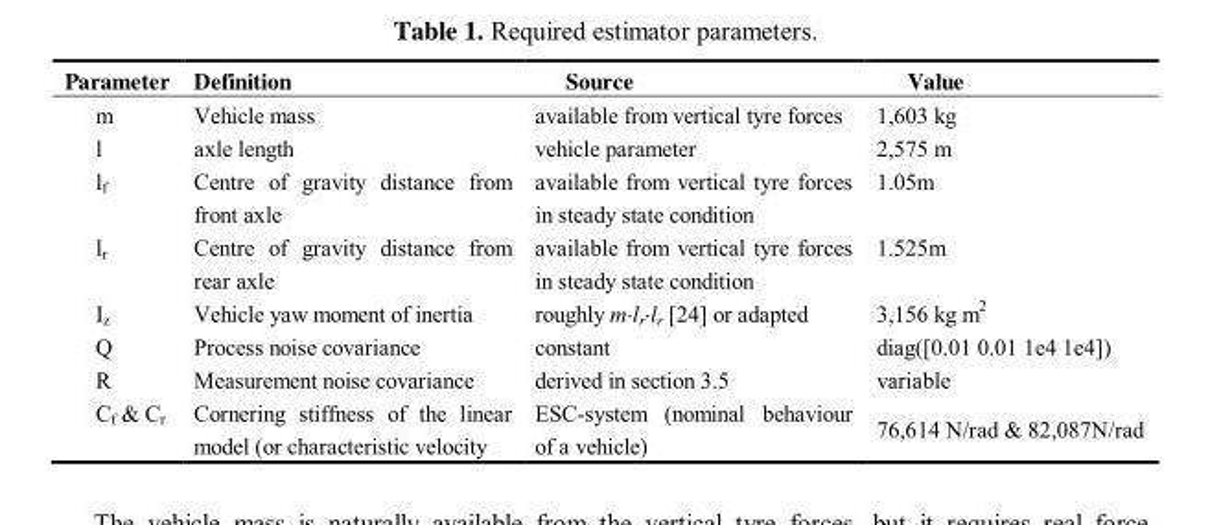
<table><thead><tr><td>Parameter</td><td>Definition</td><td>Source</td><td>Value</td></tr></thead><tbody><tr><td>m</td><td>Vehicle mass</td><td>available from vertical tyre forces</td><td>1,603 kg</td></tr><tr><td>l</td><td>axle length</td><td>vehicle parameter</td><td>2,575 m</td></tr><tr><td>l<sub>f</sub></td><td>Centre of gravity distance from front axle</td><td>available from vertical tyre forces in steady state condition</td><td>1.05m</td></tr><tr><td>l<sub>r</sub></td><td>Centre of gravity distance from rear axle</td><td>available from vertical tyre forces in steady state condition</td><td>1.525m</td></tr><tr><td>I<sub>z</sub></td><td>Vehicle yaw moment of inertia</td><td>roughly m·l<sub>r</sub>·l<sub>r</sub> [24] or adapted</td><td>3,156 kg m<sup>2</sup></td></tr><tr><td>Q</td><td>Process noise covariance</td><td>constant</td><td>diag([0.01 0.01 1e4 1e4])</td></tr><tr><td>R</td><td>Measurement noise covariance</td><td>derived in section 3.5</td><td>variable</td></tr><tr><td>C<sub>f</sub> &amp; C<sub>r</sub></td><td>Cornering stiffness of the linear model (or characteristic velocity</td><td>ESC-system (nominal behaviour of a vehicle)</td><td>76,614 N/rad &amp; 82,087N/rad</td></tr></tbody></table>